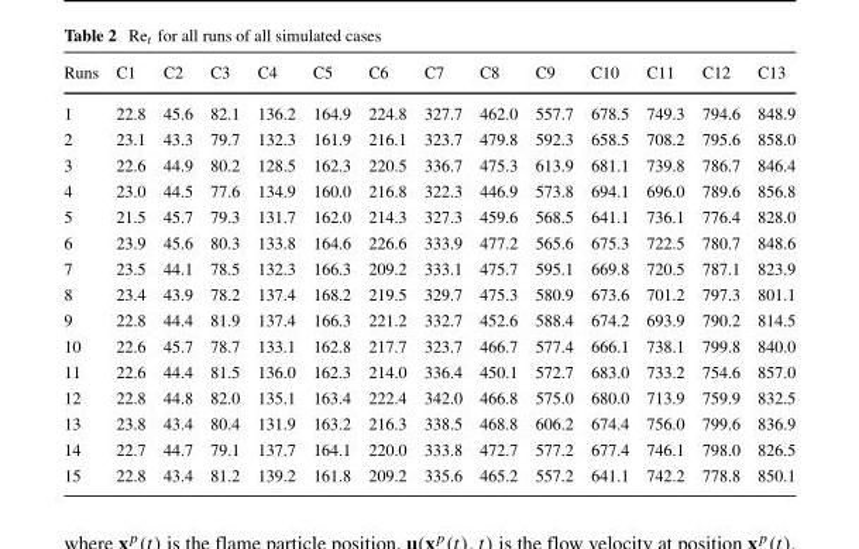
<table><thead><tr><td>Runs</td><td>C1</td><td>C2</td><td>C3</td><td>C4</td><td>C5</td><td>C6</td><td>C7</td><td>C8</td><td>C9</td><td>C10</td><td>C11</td><td>C12</td><td>C13</td></tr></thead><tbody><tr><td>1</td><td>22.8</td><td>45.6</td><td>82.1</td><td>136.2</td><td>164.9</td><td>224.8</td><td>327.7</td><td>462.0</td><td>557.7</td><td>678.5</td><td>749.3</td><td>794.6</td><td>848.9</td></tr><tr><td>2</td><td>23.1</td><td>43.3</td><td>79.7</td><td>132.3</td><td>161.9</td><td>216.1</td><td>323.7</td><td>479.8</td><td>592.3</td><td>658.5</td><td>708.2</td><td>795.6</td><td>858.0</td></tr><tr><td>3</td><td>22.6</td><td>44.9</td><td>80.2</td><td>128.5</td><td>162.3</td><td>220.5</td><td>336.7</td><td>475.3</td><td>613.9</td><td>681.1</td><td>739.8</td><td>786.7</td><td>846.4</td></tr><tr><td>4</td><td>23.0</td><td>44.5</td><td>77.6</td><td>134.9</td><td>160.0</td><td>216.8</td><td>322.3</td><td>446.9</td><td>573.8</td><td>694.1</td><td>696.0</td><td>789.6</td><td>856.8</td></tr><tr><td>5</td><td>21.5</td><td>45.7</td><td>79.3</td><td>131.7</td><td>162.0</td><td>214.3</td><td>327.3</td><td>459.6</td><td>568.5</td><td>641.1</td><td>736.1</td><td>776.4</td><td>828.0</td></tr><tr><td>6</td><td>23.9</td><td>45.6</td><td>80.3</td><td>133.8</td><td>164.6</td><td>226.6</td><td>333.9</td><td>477.2</td><td>565.6</td><td>675.3</td><td>722.5</td><td>780.7</td><td>848.6</td></tr><tr><td>7</td><td>23.5</td><td>44.1</td><td>78.5</td><td>132.3</td><td>166.3</td><td>209.2</td><td>333.1</td><td>475.7</td><td>595.1</td><td>669.8</td><td>720.5</td><td>787.1</td><td>823.9</td></tr><tr><td>8</td><td>23.4</td><td>43.9</td><td>78.2</td><td>137.4</td><td>168.2</td><td>219.5</td><td>329.7</td><td>475.3</td><td>580.9</td><td>673.6</td><td>701.2</td><td>797.3</td><td>801.1</td></tr><tr><td>9</td><td>22.8</td><td>44.4</td><td>81.9</td><td>137.4</td><td>166.3</td><td>221.2</td><td>332.7</td><td>452.6</td><td>588.4</td><td>674.2</td><td>693.9</td><td>790.2</td><td>814.5</td></tr><tr><td>10</td><td>22.6</td><td>45.7</td><td>78.7</td><td>133.1</td><td>162.8</td><td>217.7</td><td>323.7</td><td>466.7</td><td>577.4</td><td>666.1</td><td>738.1</td><td>799.8</td><td>840.0</td></tr><tr><td>11</td><td>22.6</td><td>44.4</td><td>81.5</td><td>136.0</td><td>162.3</td><td>214.0</td><td>336.4</td><td>450.1</td><td>572.7</td><td>683.0</td><td>733.2</td><td>754.6</td><td>857.0</td></tr><tr><td>12</td><td>22.8</td><td>44.8</td><td>82.0</td><td>135.1</td><td>163.4</td><td>222.4</td><td>342.0</td><td>466.8</td><td>575.0</td><td>680.0</td><td>713.9</td><td>759.9</td><td>832.5</td></tr><tr><td>13</td><td>23.8</td><td>43.4</td><td>80.4</td><td>131.9</td><td>163.2</td><td>216.3</td><td>338.5</td><td>468.8</td><td>606.2</td><td>674.4</td><td>756.0</td><td>799.6</td><td>836.9</td></tr><tr><td>14</td><td>22.7</td><td>44.7</td><td>79.1</td><td>137.7</td><td>164.1</td><td>220.0</td><td>333.8</td><td>472.7</td><td>577.2</td><td>677.4</td><td>746.1</td><td>798.0</td><td>826.5</td></tr><tr><td>15</td><td>22.8</td><td>43.4</td><td>81.2</td><td>139.2</td><td>161.8</td><td>209.2</td><td>335.6</td><td>465.2</td><td>557.2</td><td>641.1</td><td>742.2</td><td>778.8</td><td>850.1</td></tr></tbody></table>